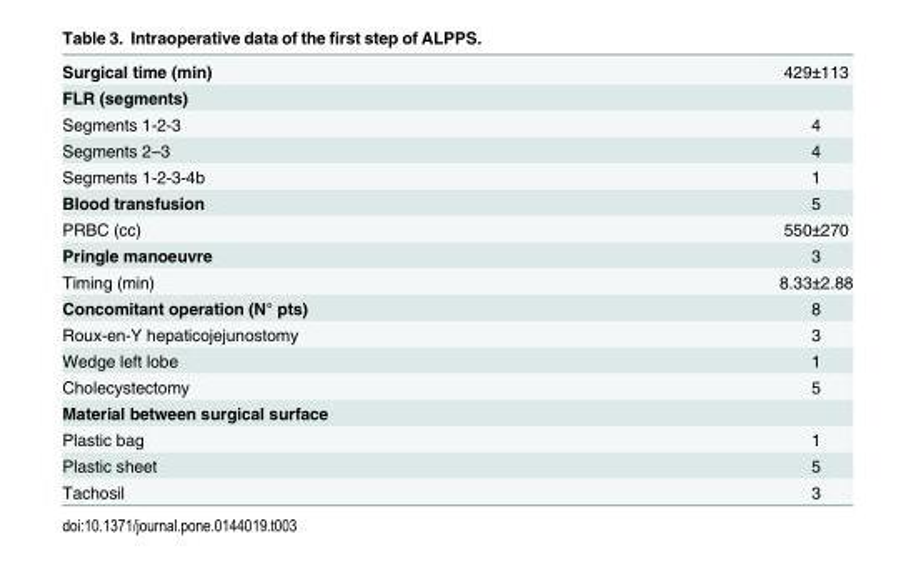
<table><tbody><tr><td>Surgical time (min)</td><td>429±113</td></tr><tr><td colspan="2">FLR (segments)</td></tr><tr><td>Segments 1-2-3</td><td>4</td></tr><tr><td>Segments 2–3</td><td>4</td></tr><tr><td>Segments 1-2-3-4b</td><td>1</td></tr><tr><td>Blood transfusion</td><td>5</td></tr><tr><td>PRBC (cc)</td><td>550±270</td></tr><tr><td>Pringle manoeuvre</td><td>3</td></tr><tr><td>Timing (min)</td><td>8.33±2.88</td></tr><tr><td>Concomitant operation (N° pts)</td><td>8</td></tr><tr><td>Roux-en-Y hepaticojejunostomy</td><td>3</td></tr><tr><td>Wedge left lobe</td><td>1</td></tr><tr><td>Cholecystectomy</td><td>5</td></tr><tr><td colspan="2">Material between surgical surface</td></tr><tr><td>Plastic bag</td><td>1</td></tr><tr><td>Plastic sheet</td><td>5</td></tr><tr><td>Tachosil</td><td>3</td></tr></tbody></table>